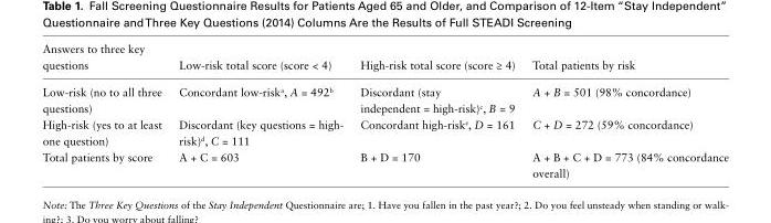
<table><thead><tr><td>Answers to three key questions</td><td>Low-risk total score (score &lt; 4)</td><td>High-risk total score (score ≥ 4)</td><td>Total patients by risk</td></tr></thead><tbody><tr><td>Low-risk (no to all three questions)</td><td>Concordant low-risk<sup>a</sup>, A = 492<sup>b</sup></td><td>Discordant (stay independent = high-risk)<sup>c</sup>, B = 9</td><td>A + B = 501 (98% concordance)</td></tr><tr><td>High-risk (yes to at least one question)</td><td>Discordant (key questions = high- risk)<sup>d</sup>, C = 111</td><td>Concordant high-risk<sup>e</sup>, D = 161</td><td>C + D = 272 (59% concordance)</td></tr><tr><td>Total patients by score</td><td>A + C = 603</td><td>B + D = 170</td><td>A + B + C + D = 773 (84% concordance overall)</td></tr></tbody></table>